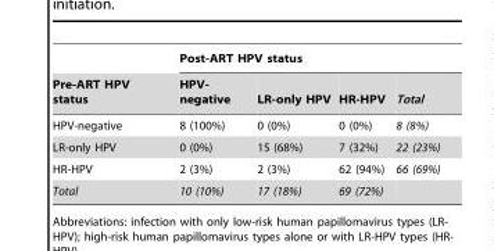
<table><thead><tr><td rowspan="2">Pre-ART HPV status</td><td colspan="4">Post-ART HPV status</td></tr><tr><td>HPV- negative</td><td>LR-only HPV</td><td>HR-HPV</td><td>Total</td></tr></thead><tbody><tr><td>HPV-negative</td><td>8 (100%)</td><td>0 (0%)</td><td>0 (0%)</td><td>8 (8%)</td></tr><tr><td>LR-only HPV</td><td>0 (0%)</td><td>15 (68%)</td><td>7 (32%)</td><td>22 (23%)</td></tr><tr><td>HR-HPV</td><td>2 (3%)</td><td>2 (3%)</td><td>62 (94%)</td><td>66 (69%)</td></tr><tr><td>Total</td><td>10 (10%)</td><td>17 (18%)</td><td>69 (72%)</td><td></td></tr></tbody></table>